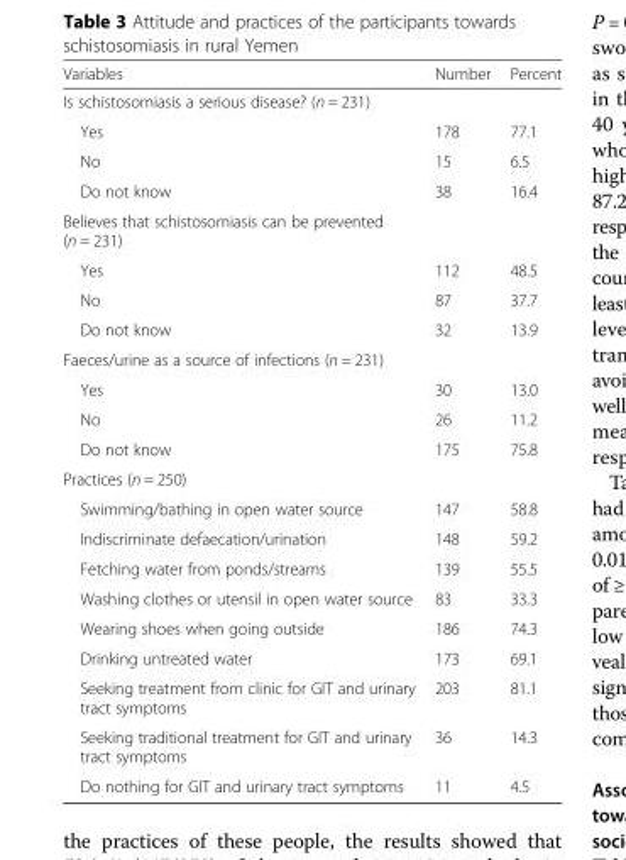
<table><thead><tr><td>Variables</td><td>Number</td><td>Percent</td></tr></thead><tbody><tr><td colspan="3">Is schistosomiasis a serious disease? (n = 231)</td></tr><tr><td>Yes</td><td>178</td><td>77.1</td></tr><tr><td>No</td><td>15</td><td>6.5</td></tr><tr><td>Do not know</td><td>38</td><td>16.4</td></tr><tr><td colspan="3">Believes that schistosomiasis can be prevented (n = 231)</td></tr><tr><td>Yes</td><td>112</td><td>48.5</td></tr><tr><td>No</td><td>87</td><td>37.7</td></tr><tr><td>Do not know</td><td>32</td><td>13.9</td></tr><tr><td colspan="3">Faeces/urine as a source of infections (n = 231)</td></tr><tr><td>Yes</td><td>30</td><td>13.0</td></tr><tr><td>No</td><td>26</td><td>11.2</td></tr><tr><td>Do not know</td><td>175</td><td>75.8</td></tr><tr><td colspan="3">Practices (n = 250)</td></tr><tr><td>Swimming/bathing in open water source</td><td>147</td><td>58.8</td></tr><tr><td>Indiscriminate defaecation/urination</td><td>148</td><td>59.2</td></tr><tr><td>Fetching water from ponds/streams</td><td>139</td><td>55.5</td></tr><tr><td>Washing clothes or utensil in open water source</td><td>83</td><td>33.3</td></tr><tr><td>Wearing shoes when going outside</td><td>186</td><td>74.3</td></tr><tr><td>Drinking untreated water</td><td>173</td><td>69.1</td></tr><tr><td>Seeking treatment from clinic for GIT and urinary tract symptoms</td><td>203</td><td>81.1</td></tr><tr><td>Seeking traditional treatment for GIT and urinary tract symptoms</td><td>36</td><td>14.3</td></tr><tr><td>Do nothing for GIT and urinary tract symptoms</td><td>11</td><td>4.5</td></tr></tbody></table>